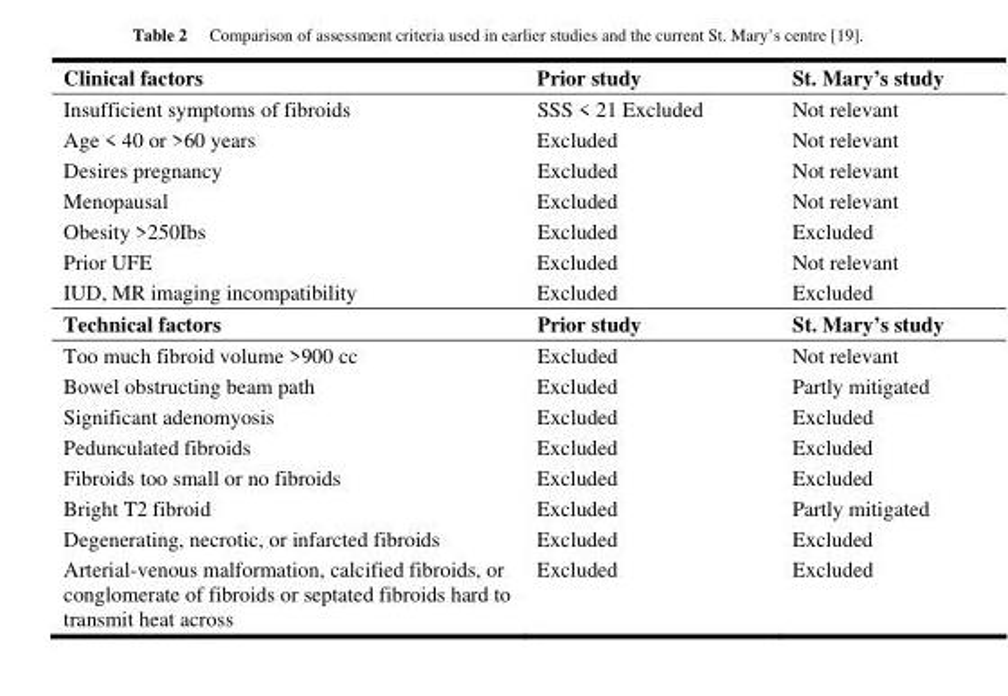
<table><thead><tr><td>Clinical factors</td><td>Prior study</td><td>St. Mary’s study</td></tr></thead><tbody><tr><td>Insufficient symptoms of fibroids</td><td>SSS &lt; 21 Excluded</td><td>Not relevant</td></tr><tr><td>Age &lt; 40 or &gt;60 years</td><td>Excluded</td><td>Not relevant</td></tr><tr><td>Desires pregnancy</td><td>Excluded</td><td>Not relevant</td></tr><tr><td>Menopausal</td><td>Excluded</td><td>Not relevant</td></tr><tr><td>Obesity &gt;250Ibs</td><td>Excluded</td><td>Excluded</td></tr><tr><td>Prior UFE</td><td>Excluded</td><td>Not relevant</td></tr><tr><td>IUD, MR imaging incompatibility</td><td>Excluded</td><td>Excluded</td></tr><tr><td>Technical factors</td><td>Prior study</td><td>St. Mary’s study</td></tr><tr><td>Too much fibroid volume &gt;900 cc</td><td>Excluded</td><td>Not relevant</td></tr><tr><td>Bowel obstructing beam path</td><td>Excluded</td><td>Partly mitigated</td></tr><tr><td>Significant adenomyosis</td><td>Excluded</td><td>Excluded</td></tr><tr><td>Pedunculated fibroids</td><td>Excluded</td><td>Excluded</td></tr><tr><td>Fibroids too small or no fibroids</td><td>Excluded</td><td>Excluded</td></tr><tr><td>Bright T2 fibroid</td><td>Excluded</td><td>Partly mitigated</td></tr><tr><td>Degenerating, necrotic, or infarcted fibroids</td><td>Excluded</td><td>Excluded</td></tr><tr><td>Arterial-venous malformation, calcified fibroids, or conglomerate of fibroids or septated fibroids hard to transmit heat across</td><td>Excluded</td><td>Excluded</td></tr></tbody></table>